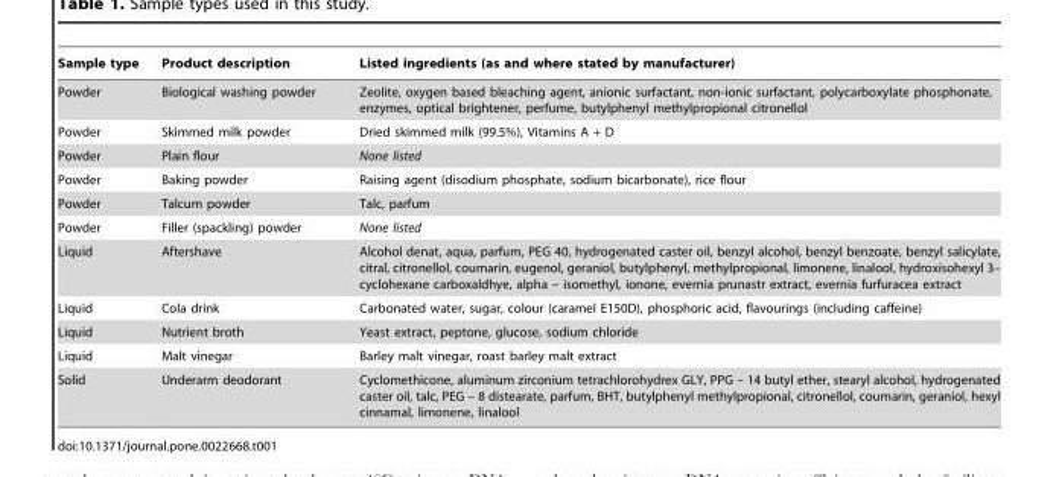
<table><thead><tr><td>Sample type</td><td>Product description</td><td>Listed ingredients (as and where stated by manufacturer)</td></tr></thead><tbody><tr><td>Powder</td><td>Biological washing powder</td><td>Zeolite, oxygen based bleaching agent, anionic surfactant, non-ionic surfactant, polycarboxylate phosphonate, enzymes, optical brightener, perfume, butylphenyl methylpropional citronellol</td></tr><tr><td>Powder</td><td>Skimmed milk powder</td><td>Dried skimmed milk (99.5%), Vitamins A + D</td></tr><tr><td>Powder</td><td>Plain flour</td><td>None listed</td></tr><tr><td>Powder</td><td>Baking powder</td><td>Raising agent (disodium phosphate, sodium bicarbonate), rice flour</td></tr><tr><td>Powder</td><td>Talcum powder</td><td>Talc, parfum</td></tr><tr><td>Powder</td><td>Filler (spackling) powder</td><td>None listed</td></tr><tr><td>Liquid</td><td>Aftershave</td><td>Alcohol denat, aqua, parfum, PEG 40, hydrogenated caster oil, benzyl alcohol, benzyl benzoate, benzyl salicylate, citral, citronellol, coumarin, eugenol, geraniol, butylphenyl, methylpropional, limonene, linalool, hydroxisohexyl 3– cyclohexane carboxaldhye, alpha – isomethyl, ionone, evernia prunastr extract, evernia furfuracea extract</td></tr><tr><td>Liquid</td><td>Cola drink</td><td>Carbonated water, sugar, colour (caramel E150D), phosphoric acid, flavourings (including caffeine)</td></tr><tr><td>Liquid</td><td>Nutrient broth</td><td>Yeast extract, peptone, glucose, sodium chloride</td></tr><tr><td>Liquid</td><td>Malt vinegar</td><td>Barley malt vinegar, roast barley malt extract</td></tr><tr><td>Solid</td><td>Underarm deodorant</td><td>Cyclomethicone, aluminum zirconium tetrachlorohydrex GLY, PPG – 14 butyl ether, stearyl alcohol, hydrogenated caster oil, talc, PEG – 8 distearate, parfum, BHT, butylphenyl methylpropional, citronellol, coumarin, geraniol, hexyl cinnamal, limonene, linalool</td></tr></tbody></table>